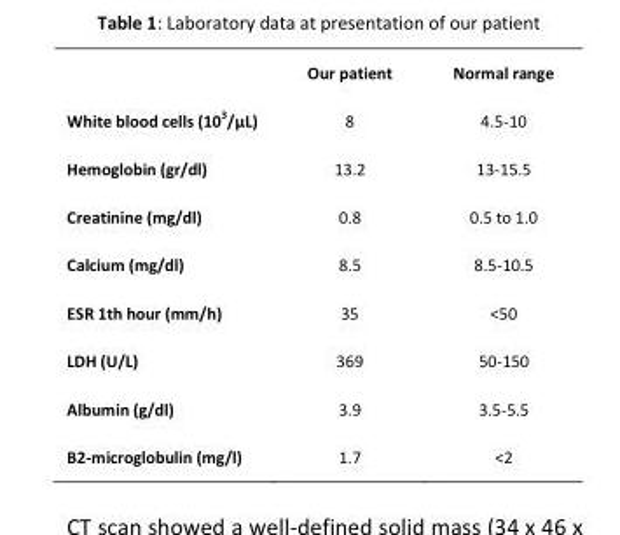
<table><thead><tr><td></td><td>Our patient</td><td>Normal range</td></tr></thead><tbody><tr><td>White blood cells (10<sup>3</sup>/μL)</td><td>8</td><td>4.5-10</td></tr><tr><td>Hemoglobin (gr/dl)</td><td>13.2</td><td>13-15.5</td></tr><tr><td>Creatinine (mg/dl)</td><td>0.8</td><td>0.5 to 1.0</td></tr><tr><td>Calcium (mg/dl)</td><td>8.5</td><td>8.5-10.5</td></tr><tr><td>ESR 1th hour (mm/h)</td><td>35</td><td>&lt;50</td></tr><tr><td>LDH (U/L)</td><td>369</td><td>50-150</td></tr><tr><td>Albumin (g/dl)</td><td>3.9</td><td>3.5-5.5</td></tr><tr><td>B2-microglobulin (mg/l)</td><td>1.7</td><td>&lt;2</td></tr></tbody></table>